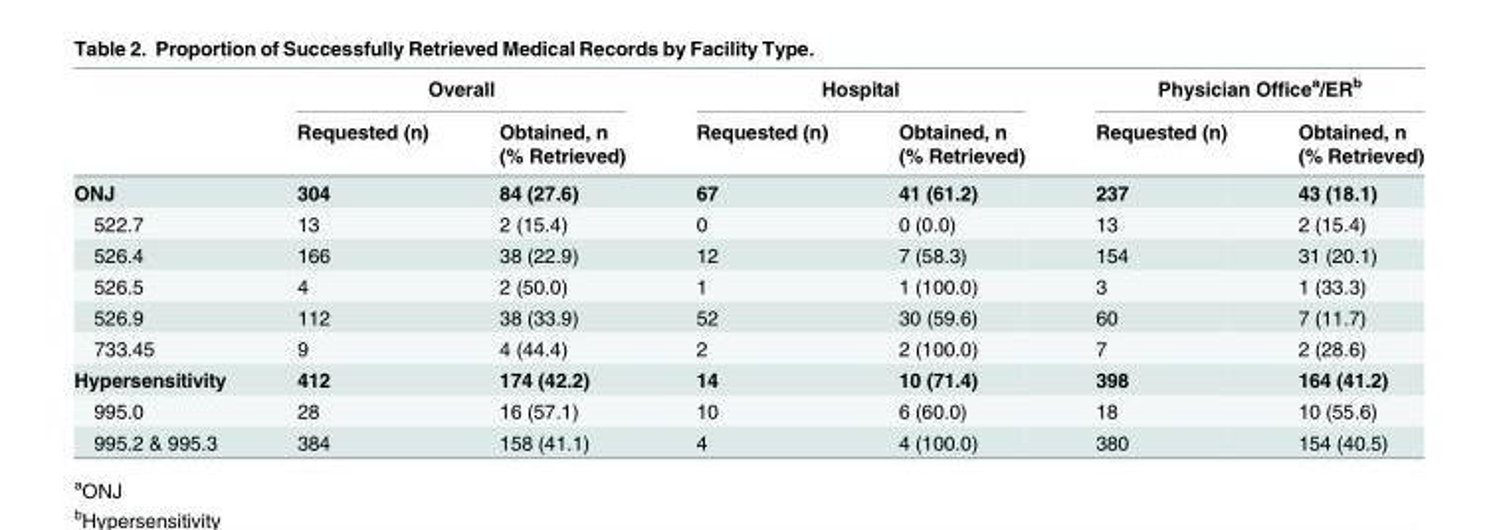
<table><thead><tr><td rowspan="2"></td><td colspan="2">Overall</td><td colspan="2">Hospital</td><td colspan="2">Physician Office<sup>a</sup>/ER<sup>b</sup></td></tr><tr><td>Requested (n)</td><td>Obtained, n (% Retrieved)</td><td>Requested (n)</td><td>Obtained, n (% Retrieved)</td><td>Requested (n)</td><td>Obtained, n (% Retrieved)</td></tr></thead><tbody><tr><td>ONJ</td><td>304</td><td>84 (27.6)</td><td>67</td><td>41 (61.2)</td><td>237</td><td>43 (18.1)</td></tr><tr><td>522.7</td><td>13</td><td>2 (15.4)</td><td>0</td><td>0 (0.0)</td><td>13</td><td>2 (15.4)</td></tr><tr><td>526.4</td><td>166</td><td>38 (22.9)</td><td>12</td><td>7 (58.3)</td><td>154</td><td>31 (20.1)</td></tr><tr><td>526.5</td><td>4</td><td>2 (50.0)</td><td>1</td><td>1 (100.0)</td><td>3</td><td>1 (33.3)</td></tr><tr><td>526.9</td><td>112</td><td>38 (33.9)</td><td>52</td><td>30 (59.6)</td><td>60</td><td>7 (11.7)</td></tr><tr><td>733.45</td><td>9</td><td>4 (44.4)</td><td>2</td><td>2 (100.0)</td><td>7</td><td>2 (28.6)</td></tr><tr><td>Hypersensitivity</td><td>412</td><td>174 (42.2)</td><td>14</td><td>10 (71.4)</td><td>398</td><td>164 (41.2)</td></tr><tr><td>995.0</td><td>28</td><td>16 (57.1)</td><td>10</td><td>6 (60.0)</td><td>18</td><td>10 (55.6)</td></tr><tr><td>995.2 &amp; 995.3</td><td>384</td><td>158 (41.1)</td><td>4</td><td>4 (100.0)</td><td>380</td><td>154 (40.5)</td></tr></tbody></table>